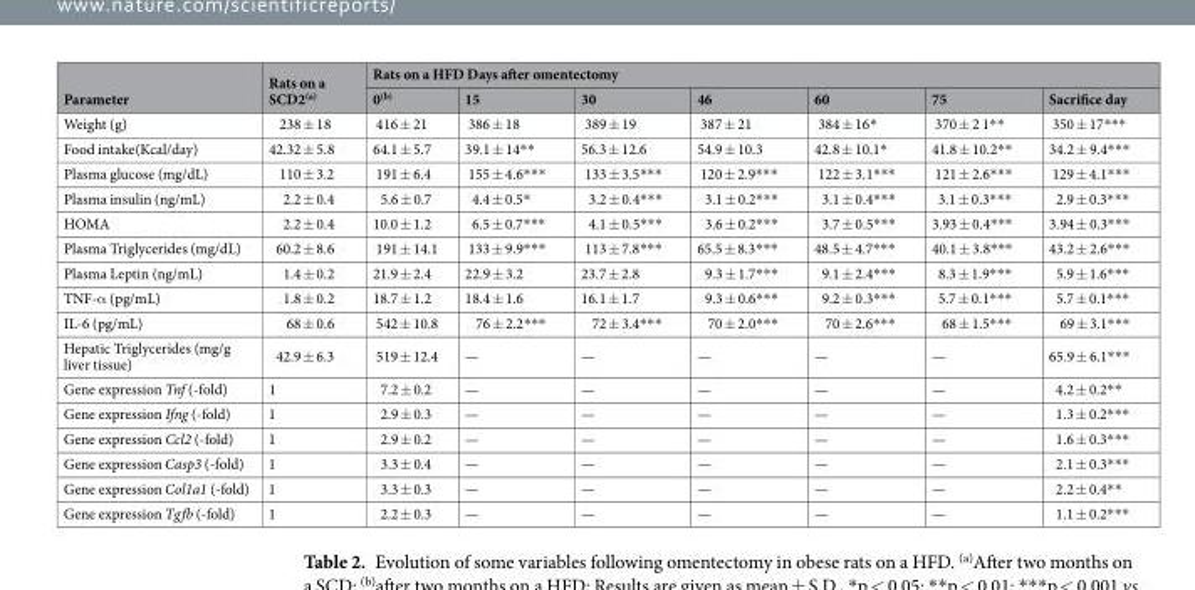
<table><thead><tr><td rowspan="2">Parameter</td><td rowspan="2">Rats on a SCD2<sup>(a)</sup></td><td colspan="7">Rats on a HFD Days after omentectomy</td></tr><tr><td>0<sup>(b)</sup></td><td>15</td><td>30</td><td>46</td><td>60</td><td>75</td><td>Sacrifice day</td></tr></thead><tbody><tr><td>Weight (g)</td><td>238 ± 18</td><td>416 ± 21</td><td>386 ± 18</td><td>389 ± 19</td><td>387 ± 21</td><td>384 ± 16*</td><td>370 ± 2 1**</td><td>350 ± 17***</td></tr><tr><td>Food intake(Kcal/day)</td><td>42.32 ± 5.8</td><td>64.1 ± 5.7</td><td>39.1 ± 14**</td><td>56.3 ± 12.6</td><td>54.9 ± 10.3</td><td>42.8 ± 10.1*</td><td>41.8 ± 10.2**</td><td>34.2 ± 9.4***</td></tr><tr><td>Plasma glucose (mg/dL)</td><td>110 ± 3.2</td><td>191 ± 6.4</td><td>155 ± 4.6***</td><td>133 ± 3.5***</td><td>120 ± 2.9***</td><td>122 ± 3.1***</td><td>121 ± 2.6***</td><td>129 ± 4.1***</td></tr><tr><td>Plasma insulin (ng/mL)</td><td>2.2 ± 0.4</td><td>5.6 ± 0.7</td><td>4.4 ± 0.5*</td><td>3.2 ± 0.4***</td><td>3.1 ± 0.2***</td><td>3.1 ± 0.4***</td><td>3.1 ± 0.3***</td><td>2.9 ± 0.3***</td></tr><tr><td>HOMA</td><td>2.2 ± 0.4</td><td>10.0 ± 1.2</td><td>6.5 ± 0.7***</td><td>4.1 ± 0.5***</td><td>3.6 ± 0.2***</td><td>3.7 ± 0.5***</td><td>3.93 ± 0.4***</td><td>3.94 ± 0.3***</td></tr><tr><td>Plasma Triglycerides (mg/dL)</td><td>60.2 ± 8.6</td><td>191 ± 14.1</td><td>133 ± 9.9***</td><td>113 ± 7.8***</td><td>65.5 ± 8.3***</td><td>48.5 ± 4.7***</td><td>40.1 ± 3.8***</td><td>43.2 ± 2.6***</td></tr><tr><td>Plasma Leptin (ng/mL)</td><td>1.4 ± 0.2</td><td>21.9 ± 2.4</td><td>22.9 ± 3.2</td><td>23.7 ± 2.8</td><td>9.3 ± 1.7***</td><td>9.1 ± 2.4***</td><td>8.3 ± 1.9***</td><td>5.9 ± 1.6***</td></tr><tr><td>TNF-α (pg/mL)</td><td>1.8 ± 0.2</td><td>18.7 ± 1.2</td><td>18.4 ± 1.6</td><td>16.1 ± 1.7</td><td>9.3 ± 0.6***</td><td>9.2 ± 0.3***</td><td>5.7 ± 0.1***</td><td>5.7 ± 0.1***</td></tr><tr><td>IL-6 (pg/mL)</td><td>68 ± 0.6</td><td>542 ± 10.8</td><td>76 ± 2.2***</td><td>72 ± 3.4***</td><td>70 ± 2.0***</td><td>70 ± 2.6***</td><td>68 ± 1.5***</td><td>69 ± 3.1***</td></tr><tr><td>Hepatic Triglycerides (mg/g liver tissue)</td><td>42.9 ± 6.3</td><td>519 ± 12.4</td><td>—</td><td>—</td><td>—</td><td>—</td><td>—</td><td>65.9 ± 6.1***</td></tr><tr><td>Gene expression Tnf (-fold)</td><td>1</td><td>7.2 ± 0.2</td><td>—</td><td>—</td><td>—</td><td>—</td><td>—</td><td>4.2 ± 0.2**</td></tr><tr><td>Gene expression Ifng (-fold)</td><td>1</td><td>2.9 ± 0.3</td><td>—</td><td>—</td><td>—</td><td>—</td><td>—</td><td>1.3 ± 0.2***</td></tr><tr><td>Gene expression Ccl2 (-fold)</td><td>1</td><td>2.9 ± 0.2</td><td>—</td><td>—</td><td>—</td><td>—</td><td>—</td><td>1.6 ± 0.3***</td></tr><tr><td>Gene expression Casp3 (-fold)</td><td>1</td><td>3.3 ± 0.4</td><td>—</td><td>—</td><td>—</td><td>—</td><td>—</td><td>2.1 ± 0.3***</td></tr><tr><td>Gene expression Col1a1 (-fold)</td><td>1</td><td>3.3 ± 0.3</td><td>—</td><td>—</td><td>—</td><td>—</td><td>—</td><td>2.2 ± 0.4**</td></tr><tr><td>Gene expression Tgfb (-fold)</td><td>1</td><td>2.2 ± 0.3</td><td>—</td><td>—</td><td>—</td><td>—</td><td>—</td><td>1.1 ± 0.2***</td></tr></tbody></table>